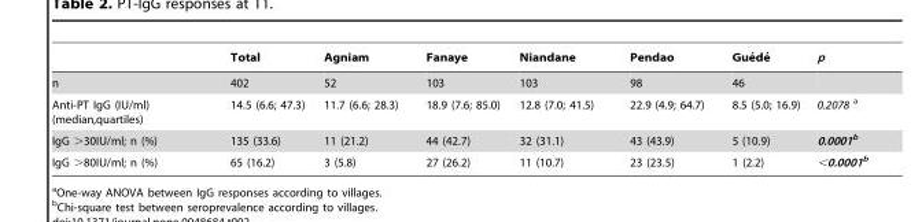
<table><thead><tr><td></td><td>Total</td><td>Agniam</td><td>Fanaye</td><td>Niandane</td><td>Pendao</td><td>Gue´de´</td><td>p</td></tr></thead><tbody><tr><td>n</td><td>402</td><td>52</td><td>103</td><td>103</td><td>98</td><td>46</td><td></td></tr><tr><td>Anti-PT IgG (IU/ml) (median,quartiles)</td><td>14.5 (6.6; 47.3)</td><td>11.7 (6.6; 28.3)</td><td>18.9 (7.6; 85.0)</td><td>12.8 (7.0; 41.5)</td><td>22.9 (4.9; 64.7)</td><td>8.5 (5.0; 16.9)</td><td>0.2078 a</td></tr><tr><td>IgG &gt;30IU/ml; n (%)</td><td>135 (33.6)</td><td>11 (21.2)</td><td>44 (42.7)</td><td>32 (31.1)</td><td>43 (43.9)</td><td>5 (10.9)</td><td>0.0001b</td></tr><tr><td>IgG &gt;80IU/ml; n (%)</td><td>65 (16.2)</td><td>3 (5.8)</td><td>27 (26.2)</td><td>11 (10.7)</td><td>23 (23.5)</td><td>1 (2.2)</td><td>&lt;0.0001b</td></tr></tbody></table>